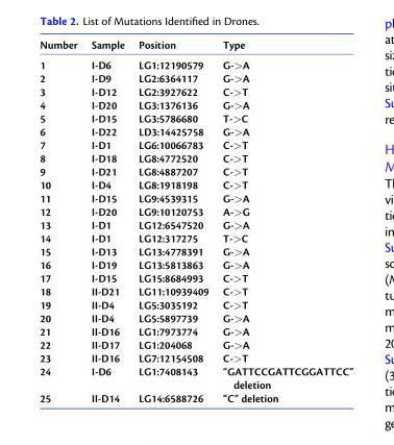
<table><thead><tr><td>Number</td><td>Sample</td><td>Position</td><td>Type</td></tr></thead><tbody><tr><td>1</td><td>I-D6</td><td>LG1:12190579</td><td>G-&gt;A</td></tr><tr><td>2</td><td>I-D9</td><td>LG2:6364117</td><td>G-&gt;A</td></tr><tr><td>3</td><td>I-D12</td><td>LG2:3927622</td><td>C-&gt;T</td></tr><tr><td>4</td><td>I-D20</td><td>LG3:1376136</td><td>G-&gt;A</td></tr><tr><td>5</td><td>I-D15</td><td>LG3:5786680</td><td>T-&gt;C</td></tr><tr><td>6</td><td>I-D22</td><td>LD3:14425758</td><td>G-&gt;A</td></tr><tr><td>7</td><td>I-D1</td><td>LG6:10066783</td><td>C-&gt;T</td></tr><tr><td>8</td><td>I-D18</td><td>LG8:4772520</td><td>C-&gt;T</td></tr><tr><td>9</td><td>I-D21</td><td>LG8:4887207</td><td>C-&gt;T</td></tr><tr><td>10</td><td>I-D4</td><td>LG8:1918198</td><td>C-&gt;T</td></tr><tr><td>11</td><td>I-D15</td><td>LG9:4539315</td><td>G-&gt;A</td></tr><tr><td>12</td><td>I-D20</td><td>LG9:10120753</td><td>A-&gt;G</td></tr><tr><td>13</td><td>I-D1</td><td>LG12:6547520</td><td>G-&gt;A</td></tr><tr><td>14</td><td>I-D1</td><td>LG12:317275</td><td>T-&gt;C</td></tr><tr><td>15</td><td>I-D13</td><td>LG13:4778391</td><td>G-&gt;A</td></tr><tr><td>16</td><td>I-D19</td><td>LG13:5813863</td><td>G-&gt;A</td></tr><tr><td>17</td><td>I-D15</td><td>LG15:8684993</td><td>C-&gt;T</td></tr><tr><td>18</td><td>II-D21</td><td>LG11:10939409</td><td>C-&gt;T</td></tr><tr><td>19</td><td>II-D4</td><td>LG5:3035192</td><td>C-&gt;T</td></tr><tr><td>20</td><td>II-D4</td><td>LG5:5897739</td><td>G-&gt;A</td></tr><tr><td>21</td><td>II-D16</td><td>LG1:7973774</td><td>G-&gt;A</td></tr><tr><td>22</td><td>II-D17</td><td>LG1:204068</td><td>G-&gt;A</td></tr><tr><td>23</td><td>II-D16</td><td>LG7:12154508</td><td>C-&gt;T</td></tr><tr><td>24</td><td>I-D6</td><td>LG1:7408143</td><td>“GATTCCGATTCGGATTCC” deletion</td></tr><tr><td>25</td><td>II-D14</td><td>LG14:6588726</td><td>“C” deletion</td></tr></tbody></table>